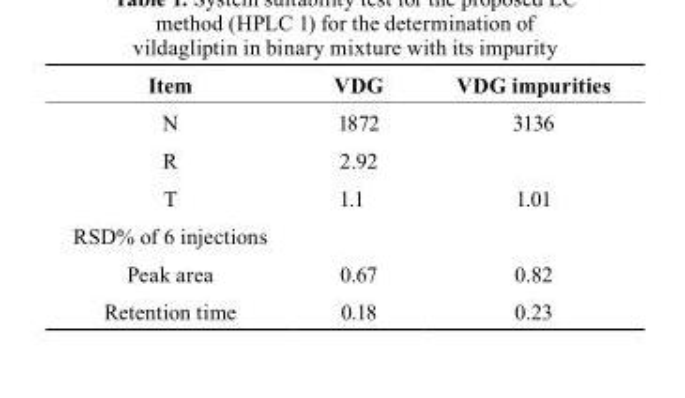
<table><thead><tr><td>Item</td><td>VDG</td><td>VDG impurities</td></tr></thead><tbody><tr><td>N</td><td>1872</td><td>3136</td></tr><tr><td>R</td><td>2.92</td><td></td></tr><tr><td>T</td><td>1.1</td><td>1.01</td></tr><tr><td colspan="3">RSD% of 6 injections</td></tr><tr><td>Peak area</td><td>0.67</td><td>0.82</td></tr><tr><td>Retention time</td><td>0.18</td><td>0.23</td></tr></tbody></table>